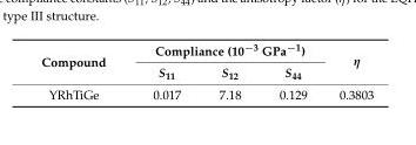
<table><thead><tr><td rowspan="2">Compound</td><td colspan="3">Compliance (10<sup>−3</sup> GPa<sup>−1</sup>)</td><td rowspan="2">η</td></tr><tr><td>S<sub>11</sub></td><td>S<sub>12</sub></td><td>S<sub>44</sub></td></tr></thead><tbody><tr><td>YRhTiGe</td><td>0.017</td><td>7.18</td><td>0.129</td><td>0.3803</td></tr></tbody></table>